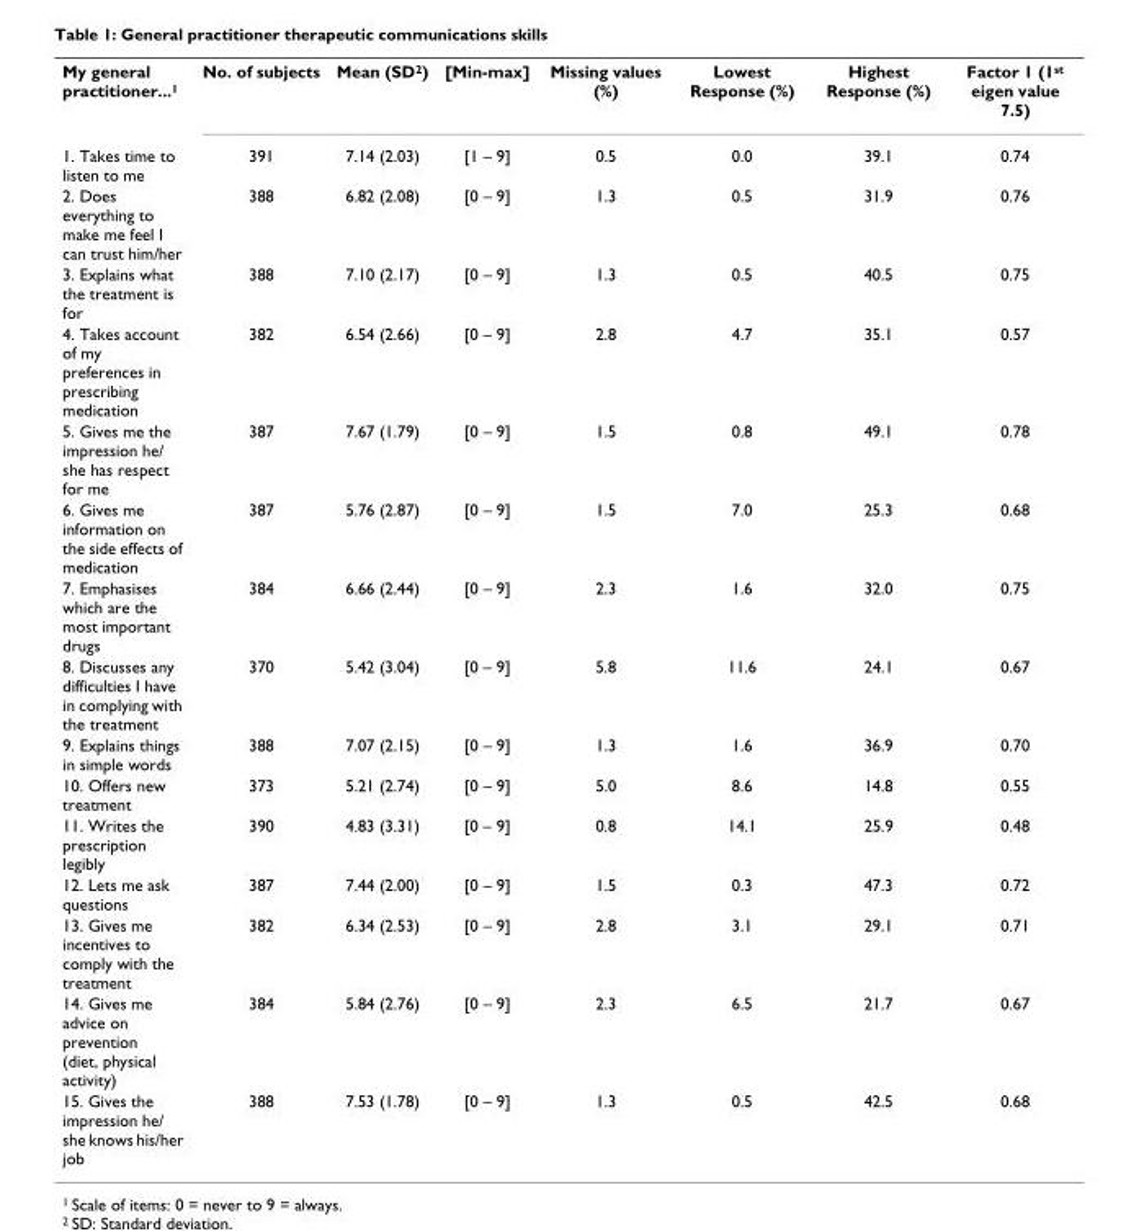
<table><tbody><tr><td>My general practitioner...<sup>1</sup></td><td>No. of subjects</td><td>Mean (SD<sup>2</sup>)</td><td>[Min-max]</td><td>Missing values (%)</td><td>Lowest Response (%)</td><td>Highest Response (%)</td><td>Factor 1 (1<sup>st</sup> eigen value 7.5)</td></tr><tr><td>1. Takes time to listen to me</td><td>391</td><td>7.14 (2.03)</td><td>[1 – 9]</td><td>0.5</td><td>0.0</td><td>39.1</td><td>0.74</td></tr><tr><td>2. Does everything to make me feel I can trust him/her</td><td>388</td><td>6.82 (2.08)</td><td>[0 – 9]</td><td>1.3</td><td>0.5</td><td>31.9</td><td>0.76</td></tr><tr><td>3. Explains what the treatment is for</td><td>388</td><td>7.10 (2.17)</td><td>[0 – 9]</td><td>1.3</td><td>0.5</td><td>40.5</td><td>0.75</td></tr><tr><td>4. Takes account of my preferences in prescribing medication</td><td>382</td><td>6.54 (2.66)</td><td>[0 – 9]</td><td>2.8</td><td>4.7</td><td>35.1</td><td>0.57</td></tr><tr><td>5. Gives me the impression he/ she has respect for me</td><td>387</td><td>7.67 (1.79)</td><td>[0 – 9]</td><td>1.5</td><td>0.8</td><td>49.1</td><td>0.78</td></tr><tr><td>6. Gives me information on the side effects of medication</td><td>387</td><td>5.76 (2.87)</td><td>[0 – 9]</td><td>1.5</td><td>7.0</td><td>25.3</td><td>0.68</td></tr><tr><td>7. Emphasises which are the most important drugs</td><td>384</td><td>6.66 (2.44)</td><td>[0 – 9]</td><td>2.3</td><td>1.6</td><td>32.0</td><td>0.75</td></tr><tr><td>8. Discusses any difficulties I have in complying with the treatment</td><td>370</td><td>5.42 (3.04)</td><td>[0 – 9]</td><td>5.8</td><td>11.6</td><td>24.1</td><td>0.67</td></tr><tr><td>9. Explains things in simple words</td><td>388</td><td>7.07 (2.15)</td><td>[0 – 9]</td><td>1.3</td><td>1.6</td><td>36.9</td><td>0.70</td></tr><tr><td>10. Offers new treatment</td><td>373</td><td>5.21 (2.74)</td><td>[0 – 9]</td><td>5.0</td><td>8.6</td><td>14.8</td><td>0.55</td></tr><tr><td>11. Writes the prescription legibly</td><td>390</td><td>4.83 (3.31)</td><td>[0 – 9]</td><td>0.8</td><td>14.1</td><td>25.9</td><td>0.48</td></tr><tr><td>12. Lets me ask questions</td><td>387</td><td>7.44 (2.00)</td><td>[0 – 9]</td><td>1.5</td><td>0.3</td><td>47.3</td><td>0.72</td></tr><tr><td>13. Gives me incentives to comply with the treatment</td><td>382</td><td>6.34 (2.53)</td><td>[0 – 9]</td><td>2.8</td><td>3.1</td><td>29.1</td><td>0.71</td></tr><tr><td>14. Gives me advice on prevention (diet, physical activity)</td><td>384</td><td>5.84 (2.76)</td><td>[0 – 9]</td><td>2.3</td><td>6.5</td><td>21.7</td><td>0.67</td></tr><tr><td>15. Gives the impression he/ she knows his/her job</td><td>388</td><td>7.53 (1.78)</td><td>[0 – 9]</td><td>1.3</td><td>0.5</td><td>42.5</td><td>0.68</td></tr></tbody></table>